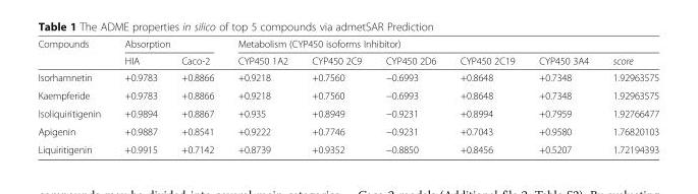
<table><thead><tr><td rowspan="2">Compounds</td><td colspan="2">Absorption</td><td colspan="6">Metabolism (CYP450 isoforms Inhibitor)</td></tr><tr><td>HIA</td><td>Caco-2</td><td>CYP450 1A2</td><td>CYP450 2C9</td><td>CYP450 2D6</td><td>CYP450 2C19</td><td>CYP450 3A4</td><td>score</td></tr></thead><tbody><tr><td>Isorhamnetin</td><td>+0.9783</td><td>+0.8866</td><td>+0.9218</td><td>+0.7560</td><td>−0.6993</td><td>+0.8648</td><td>+0.7348</td><td>1.92963575</td></tr><tr><td>Kaempferide</td><td>+0.9783</td><td>+0.8866</td><td>+0.9218</td><td>+0.7560</td><td>−0.6993</td><td>+0.8648</td><td>+0.7348</td><td>1.92963575</td></tr><tr><td>Isoliquiritigenin</td><td>+0.9894</td><td>+0.8867</td><td>+0.935</td><td>+0.8949</td><td>−0.9231</td><td>+0.8994</td><td>+0.7959</td><td>1.92766477</td></tr><tr><td>Apigenin</td><td>+0.9887</td><td>+0.8541</td><td>+0.9222</td><td>+0.7746</td><td>−0.9231</td><td>+0.7043</td><td>+0.9580</td><td>1.76820103</td></tr><tr><td>Liquiritigenin</td><td>+0.9915</td><td>+0.7142</td><td>+0.8739</td><td>+0.9352</td><td>−0.8850</td><td>+0.8456</td><td>+0.5207</td><td>1.72194393</td></tr></tbody></table>